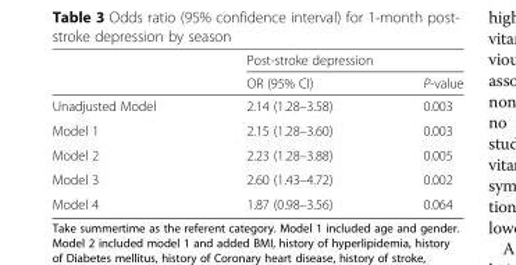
<table><thead><tr><td rowspan="2"></td><td colspan="2">Post-stroke depression</td></tr><tr><td>OR (95% CI)</td><td>P-value</td></tr></thead><tbody><tr><td>Unadjusted Model</td><td>2.14 (1.28–3.58)</td><td>0.003</td></tr><tr><td>Model 1</td><td>2.15 (1.28–3.60)</td><td>0.003</td></tr><tr><td>Model 2</td><td>2.23 (1.28–3.88)</td><td>0.005</td></tr><tr><td>Model 3</td><td>2.60 (1.43–4.72)</td><td>0.002</td></tr><tr><td>Model 4</td><td>1.87 (0.98–3.56)</td><td>0.064</td></tr></tbody></table>